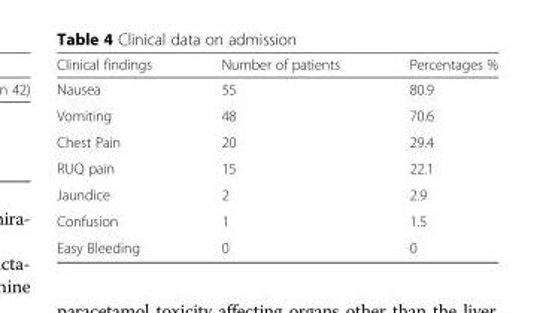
<table><thead><tr><td>Clinical findings</td><td>Number of patients</td><td>Percentages %</td></tr></thead><tbody><tr><td>Nausea</td><td>55</td><td>80.9</td></tr><tr><td>Vomiting</td><td>48</td><td>70.6</td></tr><tr><td>Chest Pain</td><td>20</td><td>29.4</td></tr><tr><td>RUQ pain</td><td>15</td><td>22.1</td></tr><tr><td>Jaundice</td><td>2</td><td>2.9</td></tr><tr><td>Confusion</td><td>1</td><td>1.5</td></tr><tr><td>Easy Bleeding</td><td>0</td><td>0</td></tr></tbody></table>